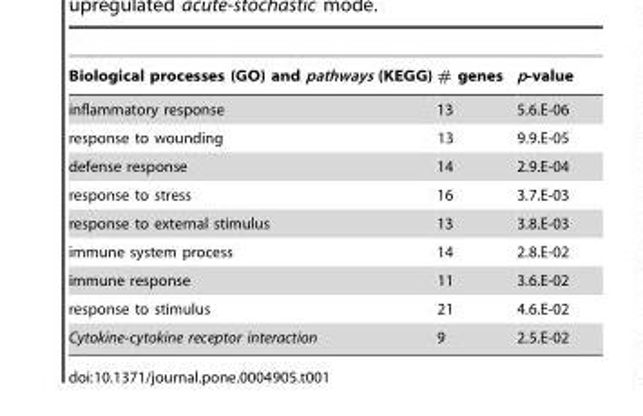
<table><thead><tr><td>Biological processes (GO) and pathways (KEGG)</td><td># genes</td><td>p-value</td></tr></thead><tbody><tr><td>inflammatory response</td><td>13</td><td>5.6.E-06</td></tr><tr><td>response to wounding</td><td>13</td><td>9.9.E-05</td></tr><tr><td>defense response</td><td>14</td><td>2.9.E-04</td></tr><tr><td>response to stress</td><td>16</td><td>3.7.E-03</td></tr><tr><td>response to external stimulus</td><td>13</td><td>3.8.E-03</td></tr><tr><td>immune system process</td><td>14</td><td>2.8.E-02</td></tr><tr><td>immune response</td><td>11</td><td>3.6.E-02</td></tr><tr><td>response to stimulus</td><td>21</td><td>4.6.E-02</td></tr><tr><td>Cytokine-cytokine receptor interaction</td><td>9</td><td>2.5.E-02</td></tr></tbody></table>